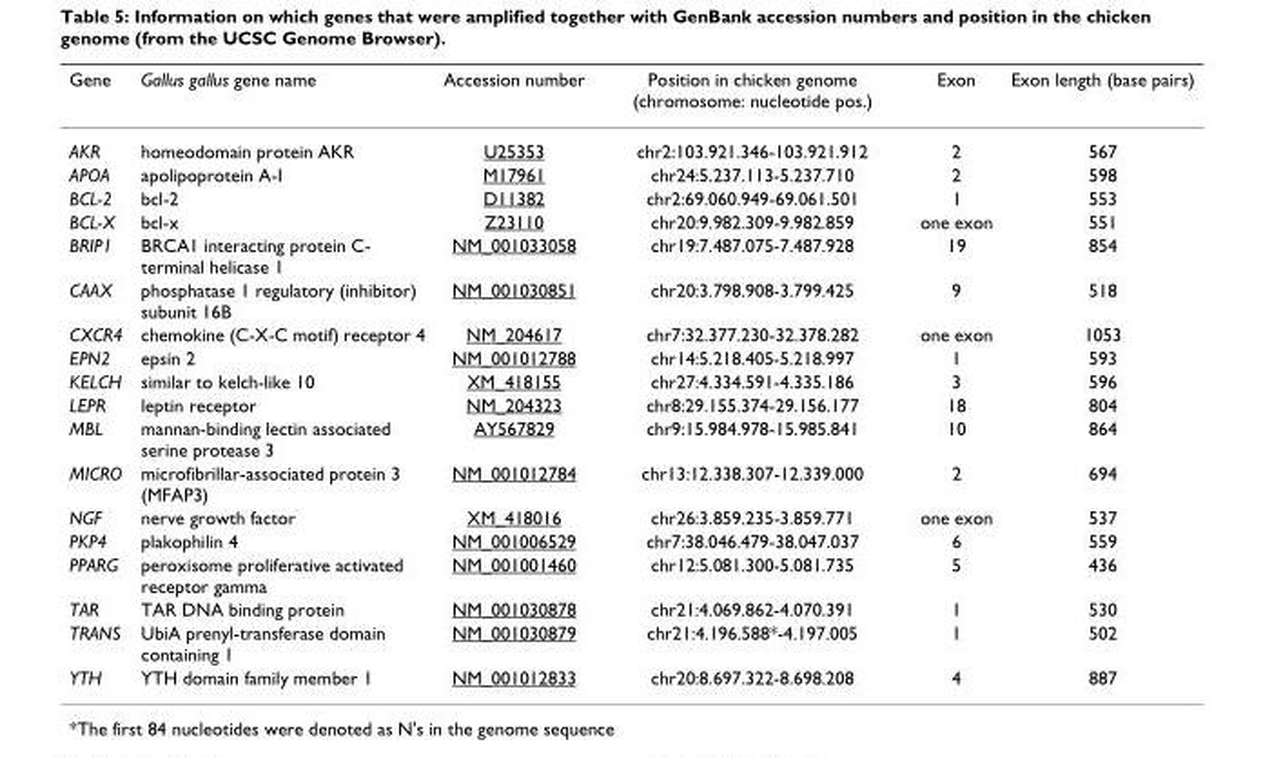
<table><thead><tr><td>Gene</td><td>Gallus gallus gene name</td><td>Accession number</td><td>Position in chicken genome (chromosome: nucleotide pos.)</td><td>Exon</td><td>Exon length (base pairs)</td></tr></thead><tbody><tr><td>AKR</td><td>homeodomain protein AKR</td><td>U25353</td><td>chr2:103.921.346-103.921.912</td><td>2</td><td>567</td></tr><tr><td>APOA</td><td>apolipoprotein A-I</td><td>M17961</td><td>chr24:5.237.113-5.237.710</td><td>2</td><td>598</td></tr><tr><td>BCL-2</td><td>bcl-2</td><td>D11382</td><td>chr2:69.060.949-69.061.501</td><td>1</td><td>553</td></tr><tr><td>BCL-X</td><td>bcl-x</td><td>Z23110</td><td>chr20:9.982.309-9.982.859</td><td>one exon</td><td>551</td></tr><tr><td>BRIP1</td><td>BRCA1 interacting protein C- terminal helicase 1</td><td>NM_001033058</td><td>chr19:7.487.075-7.487.928</td><td>19</td><td>854</td></tr><tr><td>CAAX</td><td>phosphatase 1 regulatory (inhibitor) subunit 16B</td><td>NM_001030851</td><td>chr20:3.798.908-3.799.425</td><td>9</td><td>518</td></tr><tr><td>CXCR4</td><td>chemokine (C-X-C motif) receptor 4</td><td>NM_204617</td><td>chr7:32.377.230-32.378.282</td><td>one exon</td><td>1053</td></tr><tr><td>EPN2</td><td>epsin 2</td><td>NM_001012788</td><td>chr14:5.218.405-5.218.997</td><td>1</td><td>593</td></tr><tr><td>KELCH</td><td>similar to kelch-like 10</td><td>XM_418155</td><td>chr27:4.334.591-4.335.186</td><td>3</td><td>596</td></tr><tr><td>LEPR</td><td>leptin receptor</td><td>NM_204323</td><td>chr8:29.155.374-29.156.177</td><td>18</td><td>804</td></tr><tr><td>MBL</td><td>mannan-binding lectin associated serine protease 3</td><td>AY567829</td><td>chr9:15.984.978-15.985.841</td><td>10</td><td>864</td></tr><tr><td>MICRO</td><td>microfibrillar-associated protein 3 (MFAP3)</td><td>NM_001012784</td><td>chr13:12.338.307-12.339.000</td><td>2</td><td>694</td></tr><tr><td>NGF</td><td>nerve growth factor</td><td>XM_418016</td><td>chr26:3.859.235-3.859.771</td><td>one exon</td><td>537</td></tr><tr><td>PKP4</td><td>plakophilin 4</td><td>NM_001006529</td><td>chr7:38.046.479-38.047.037</td><td>6</td><td>559</td></tr><tr><td>PPARG</td><td>peroxisome proliferative activated receptor gamma</td><td>NM_001001460</td><td>chr12:5.081.300-5.081.735</td><td>5</td><td>436</td></tr><tr><td>TAR</td><td>TAR DNA binding protein</td><td>NM_001030878</td><td>chr21:4.069.862-4.070.391</td><td>1</td><td>530</td></tr><tr><td>TRANS</td><td>UbiA prenyl-transferase domain containing 1</td><td>NM_001030879</td><td>chr21:4.196.588*-4.197.005</td><td>1</td><td>502</td></tr><tr><td>YTH</td><td>YTH domain family member 1</td><td>NM_001012833</td><td>chr20:8.697.322-8.698.208</td><td>4</td><td>887</td></tr></tbody></table>